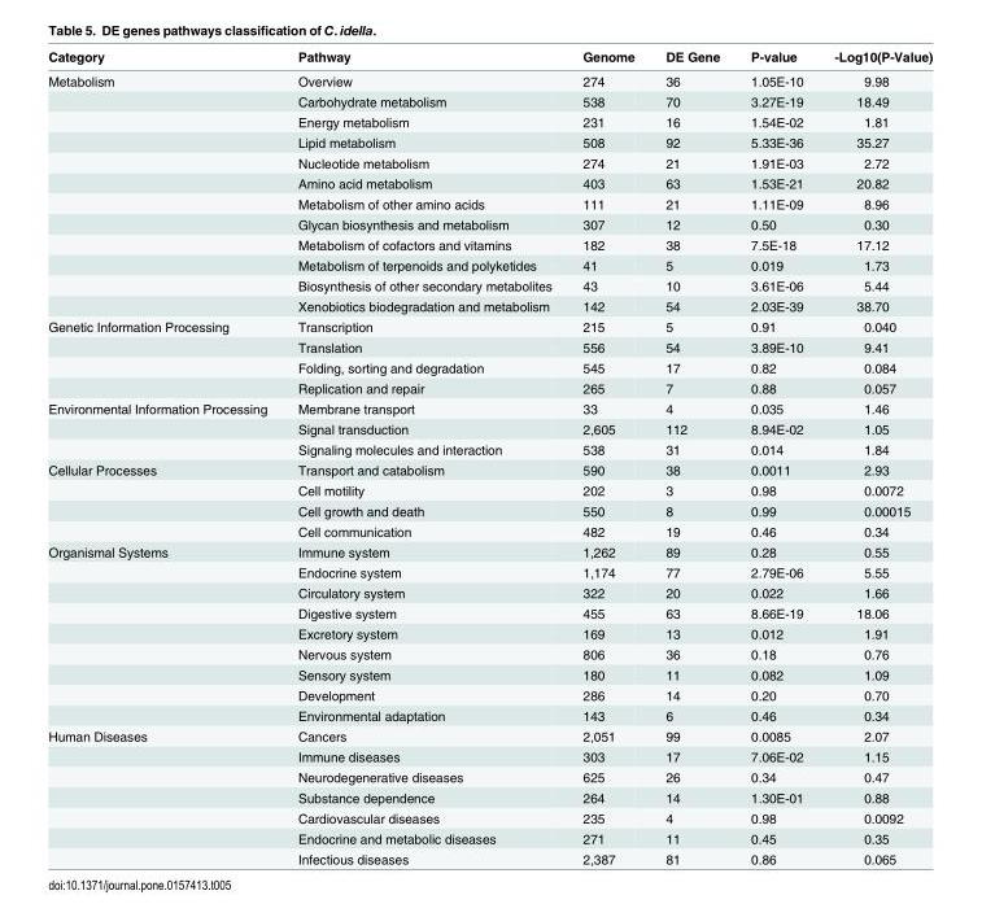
<table><thead><tr><td>Category</td><td>Pathway</td><td>Genome</td><td>DE Gene</td><td>P-value</td><td>-Log10(P-Value)</td></tr></thead><tbody><tr><td rowspan="12">Metabolism</td><td>Overview</td><td>274</td><td>36</td><td>1.05E-10</td><td>9.98</td></tr><tr><td>Carbohydrate metabolism</td><td>538</td><td>70</td><td>3.27E-19</td><td>18.49</td></tr><tr><td>Energy metabolism</td><td>231</td><td>16</td><td>1.54E-02</td><td>1.81</td></tr><tr><td>Lipid metabolism</td><td>508</td><td>92</td><td>5.33E-36</td><td>35.27</td></tr><tr><td>Nucleotide metabolism</td><td>274</td><td>21</td><td>1.91E-03</td><td>2.72</td></tr><tr><td>Amino acid metabolism</td><td>403</td><td>63</td><td>1.53E-21</td><td>20.82</td></tr><tr><td>Metabolism of other amino acids</td><td>111</td><td>21</td><td>1.11E-09</td><td>8.96</td></tr><tr><td>Glycan biosynthesis and metabolism</td><td>307</td><td>12</td><td>0.50</td><td>0.30</td></tr><tr><td>Metabolism of cofactors and vitamins</td><td>182</td><td>38</td><td>7.5E-18</td><td>17.12</td></tr><tr><td>Metabolism of terpenoids and polyketides</td><td>41</td><td>5</td><td>0.019</td><td>1.73</td></tr><tr><td>Biosynthesis of other secondary metabolites</td><td>43</td><td>10</td><td>3.61E-06</td><td>5.44</td></tr><tr><td>Xenobiotics biodegradation and metabolism</td><td>142</td><td>54</td><td>2.03E-39</td><td>38.70</td></tr><tr><td rowspan="4">Genetic Information Processing</td><td>Transcription</td><td>215</td><td>5</td><td>0.91</td><td>0.040</td></tr><tr><td>Translation</td><td>556</td><td>54</td><td>3.89E-10</td><td>9.41</td></tr><tr><td>Folding, sorting and degradation</td><td>545</td><td>17</td><td>0.82</td><td>0.084</td></tr><tr><td>Replication and repair</td><td>265</td><td>7</td><td>0.88</td><td>0.057</td></tr><tr><td rowspan="3">Environmental Information Processing</td><td>Membrane transport</td><td>33</td><td>4</td><td>0.035</td><td>1.46</td></tr><tr><td>Signal transduction</td><td>2,605</td><td>112</td><td>8.94E-02</td><td>1.05</td></tr><tr><td>Signaling molecules and interaction</td><td>538</td><td>31</td><td>0.014</td><td>1.84</td></tr><tr><td rowspan="4">Cellular Processes</td><td>Transport and catabolism</td><td>590</td><td>38</td><td>0.0011</td><td>2.93</td></tr><tr><td>Cell motility</td><td>202</td><td>3</td><td>0.98</td><td>0.0072</td></tr><tr><td>Cell growth and death</td><td>550</td><td>8</td><td>0.99</td><td>0.00015</td></tr><tr><td>Cell communication</td><td>482</td><td>19</td><td>0.46</td><td>0.34</td></tr><tr><td rowspan="9">Organismal Systems</td><td>Immune system</td><td>1,262</td><td>89</td><td>0.28</td><td>0.55</td></tr><tr><td>Endocrine system</td><td>1,174</td><td>77</td><td>2.79E-06</td><td>5.55</td></tr><tr><td>Circulatory system</td><td>322</td><td>20</td><td>0.022</td><td>1.66</td></tr><tr><td>Digestive system</td><td>455</td><td>63</td><td>8.66E-19</td><td>18.06</td></tr><tr><td>Excretory system</td><td>169</td><td>13</td><td>0.012</td><td>1.91</td></tr><tr><td>Nervous system</td><td>806</td><td>36</td><td>0.18</td><td>0.76</td></tr><tr><td>Sensory system</td><td>180</td><td>11</td><td>0.082</td><td>1.09</td></tr><tr><td>Development</td><td>286</td><td>14</td><td>0.20</td><td>0.70</td></tr><tr><td>Environmental adaptation</td><td>143</td><td>6</td><td>0.46</td><td>0.34</td></tr><tr><td rowspan="7">Human Diseases</td><td>Cancers</td><td>2,051</td><td>99</td><td>0.0085</td><td>2.07</td></tr><tr><td>Immune diseases</td><td>303</td><td>17</td><td>7.06E-02</td><td>1.15</td></tr><tr><td>Neurodegenerative diseases</td><td>625</td><td>26</td><td>0.34</td><td>0.47</td></tr><tr><td>Substance dependence</td><td>264</td><td>14</td><td>1.30E-01</td><td>0.88</td></tr><tr><td>Cardiovascular diseases</td><td>235</td><td>4</td><td>0.98</td><td>0.0092</td></tr><tr><td>Endocrine and metabolic diseases</td><td>271</td><td>11</td><td>0.45</td><td>0.35</td></tr><tr><td>Infectious diseases</td><td>2,387</td><td>81</td><td>0.86</td><td>0.065</td></tr></tbody></table>